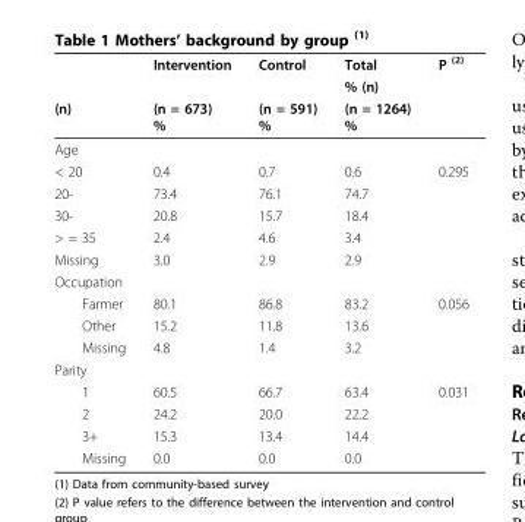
<table><thead><tr><td rowspan="3">(n)</td><td rowspan="3">Intervention (n = 673) %</td><td rowspan="3">Control (n = 591) %</td><td rowspan="3">Total % (n) (n = 1264) %</td><td rowspan="3">P <sup>(2)</sup></td></tr><tr></tr><tr></tr></thead><tbody><tr><td colspan="5">Age</td></tr><tr><td>&lt; 20</td><td>0.4</td><td>0.7</td><td>0.6</td><td>0.295</td></tr><tr><td>20-</td><td>73.4</td><td>76.1</td><td>74.7</td><td></td></tr><tr><td>30-</td><td>20.8</td><td>15.7</td><td>18.4</td><td></td></tr><tr><td>&gt; = 35</td><td>2.4</td><td>4.6</td><td>3.4</td><td></td></tr><tr><td>Missing</td><td>3.0</td><td>2.9</td><td>2.9</td><td></td></tr><tr><td colspan="5">Occupation</td></tr><tr><td>Farmer</td><td>80.1</td><td>86.8</td><td>83.2</td><td>0.056</td></tr><tr><td>Other</td><td>15.2</td><td>11.8</td><td>13.6</td><td></td></tr><tr><td>Missing</td><td>4.8</td><td>1.4</td><td>3.2</td><td></td></tr><tr><td colspan="5">Parity</td></tr><tr><td>1</td><td>60.5</td><td>66.7</td><td>63.4</td><td>0.031</td></tr><tr><td>2</td><td>24.2</td><td>20.0</td><td>22.2</td><td></td></tr><tr><td>3+</td><td>15.3</td><td>13.4</td><td>14.4</td><td></td></tr><tr><td>Missing</td><td>0.0</td><td>0.0</td><td>0.0</td><td></td></tr></tbody></table>